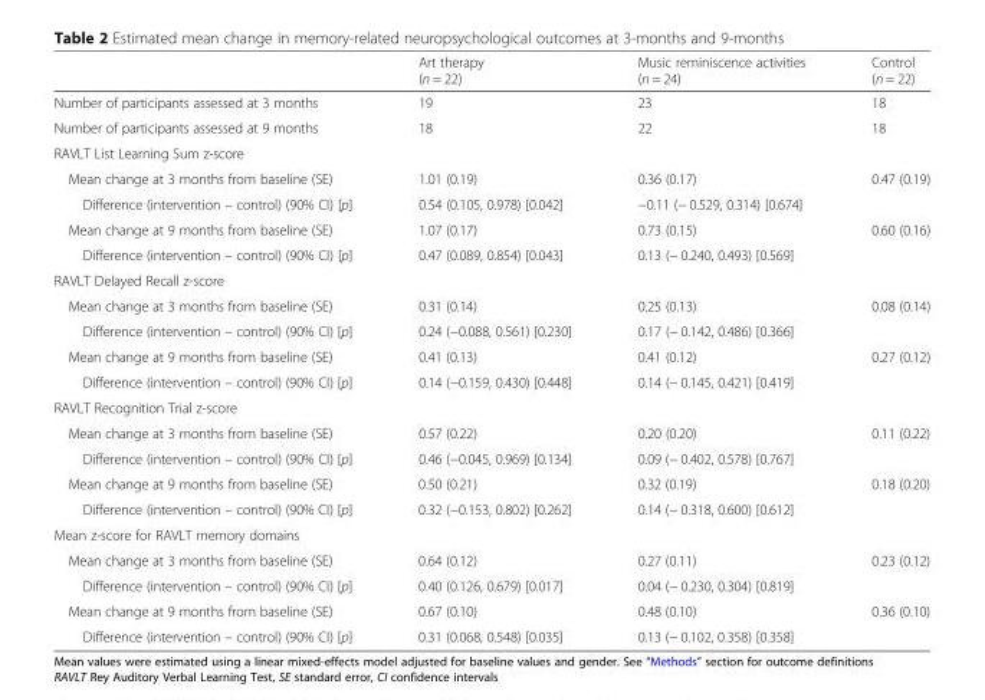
<table><thead><tr><td></td><td>Art therapy (n = 22)</td><td>Music reminiscence activities (n = 24)</td><td>Control (n = 22)</td></tr></thead><tbody><tr><td>Number of participants assessed at 3 months</td><td>19</td><td>23</td><td>18</td></tr><tr><td>Number of participants assessed at 9 months</td><td>18</td><td>22</td><td>18</td></tr><tr><td colspan="4">RAVLT List Learning Sum z-score</td></tr><tr><td>Mean change at 3 months from baseline (SE)</td><td>1.01 (0.19)</td><td>0.36 (0.17)</td><td>0.47 (0.19)</td></tr><tr><td>Difference (intervention – control) (90% CI) [p]</td><td>0.54 (0.105, 0.978) [0.042]</td><td>−0.11 (− 0.529, 0.314) [0.674]</td><td></td></tr><tr><td>Mean change at 9 months from baseline (SE)</td><td>1.07 (0.17)</td><td>0.73 (0.15)</td><td>0.60 (0.16)</td></tr><tr><td>Difference (intervention – control) (90% CI) [p]</td><td>0.47 (0.089, 0.854) [0.043]</td><td>0.13 (− 0.240, 0.493) [0.569]</td><td></td></tr><tr><td colspan="4">RAVLT Delayed Recall z-score</td></tr><tr><td>Mean change at 3 months from baseline (SE)</td><td>0.31 (0.14)</td><td>0.25 (0.13)</td><td>0.08 (0.14)</td></tr><tr><td>Difference (intervention – control) (90% CI) [p]</td><td>0.24 (−0.088, 0.561) [0.230]</td><td>0.17 (− 0.142, 0.486) [0.366]</td><td></td></tr><tr><td>Mean change at 9 months from baseline (SE)</td><td>0.41 (0.13)</td><td>0.41 (0.12)</td><td>0.27 (0.12)</td></tr><tr><td>Difference (intervention – control) (90% CI) [p]</td><td>0.14 (−0.159, 0.430) [0.448]</td><td>0.14 (− 0.145, 0.421) [0.419]</td><td></td></tr><tr><td colspan="4">RAVLT Recognition Trial z-score</td></tr><tr><td>Mean change at 3 months from baseline (SE)</td><td>0.57 (0.22)</td><td>0.20 (0.20)</td><td>0.11 (0.22)</td></tr><tr><td>Difference (intervention – control) (90% CI) [p]</td><td>0.46 (−0.045, 0.969) [0.134]</td><td>0.09 (− 0.402, 0.578) [0.767]</td><td></td></tr><tr><td>Mean change at 9 months from baseline (SE)</td><td>0.50 (0.21)</td><td>0.32 (0.19)</td><td>0.18 (0.20)</td></tr><tr><td>Difference (intervention – control) (90% CI) [p]</td><td>0.32 (−0.153, 0.802) [0.262]</td><td>0.14 (− 0.318, 0.600) [0.612]</td><td></td></tr><tr><td colspan="4">Mean z-score for RAVLT memory domains</td></tr><tr><td>Mean change at 3 months from baseline (SE)</td><td>0.64 (0.12)</td><td>0.27 (0.11)</td><td>0.23 (0.12)</td></tr><tr><td>Difference (intervention – control) (90% CI) [p]</td><td>0.40 (0.126, 0.679) [0.017]</td><td>0.04 (− 0.230, 0.304) [0.819]</td><td></td></tr><tr><td>Mean change at 9 months from baseline (SE)</td><td>0.67 (0.10)</td><td>0.48 (0.10)</td><td>0.36 (0.10)</td></tr><tr><td>Difference (intervention – control) (90% CI) [p]</td><td>0.31 (0.068, 0.548) [0.035]</td><td>0.13 (− 0.102, 0.358) [0.358]</td><td></td></tr></tbody></table>